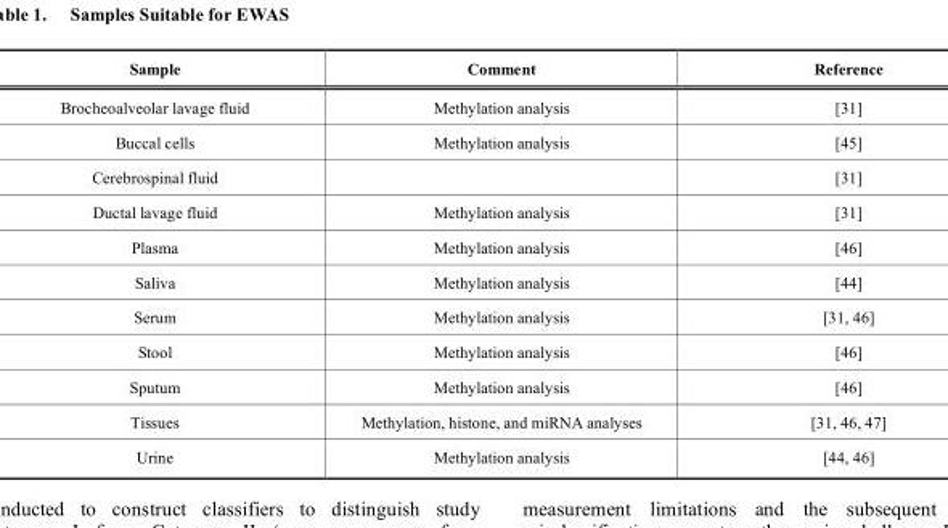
<table><thead><tr><td>Sample</td><td>Comment</td><td>Reference</td></tr></thead><tbody><tr><td>Brocheoalveolar lavage fluid</td><td>Methylation analysis</td><td>[31]</td></tr><tr><td>Buccal cells</td><td>Methylation analysis</td><td>[45]</td></tr><tr><td>Cerebrospinal fluid</td><td></td><td>[31]</td></tr><tr><td>Ductal lavage fluid</td><td>Methylation analysis</td><td>[31]</td></tr><tr><td>Plasma</td><td>Methylation analysis</td><td>[46]</td></tr><tr><td>Saliva</td><td>Methylation analysis</td><td>[44]</td></tr><tr><td>Serum</td><td>Methylation analysis</td><td>[31, 46]</td></tr><tr><td>Stool</td><td>Methylation analysis</td><td>[46]</td></tr><tr><td>Sputum</td><td>Methylation analysis</td><td>[46]</td></tr><tr><td>Tissues</td><td>Methylation, histone, and miRNA analyses</td><td>[31, 46, 47]</td></tr><tr><td>Urine</td><td>Methylation analysis</td><td>[44, 46]</td></tr></tbody></table>